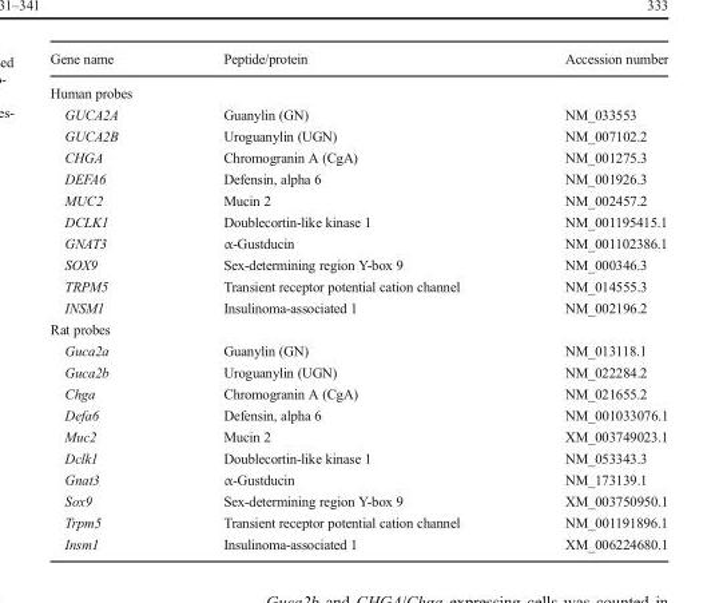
<table><thead><tr><td>Gene name</td><td>Peptide/protein</td><td>Accession number</td></tr></thead><tbody><tr><td colspan="3">Human probes</td></tr><tr><td>GUCA2A</td><td>Guanylin (GN)</td><td>NM_033553</td></tr><tr><td>GUCA2B</td><td>Uroguanylin (UGN)</td><td>NM_007102.2</td></tr><tr><td>CHGA</td><td>Chromogranin A (CgA)</td><td>NM_001275.3</td></tr><tr><td>DEFA6</td><td>Defensin, alpha 6</td><td>NM_001926.3</td></tr><tr><td>MUC2</td><td>Mucin 2</td><td>NM_002457.2</td></tr><tr><td>DCLK1</td><td>Doublecortin-like kinase 1</td><td>NM_001195415.1</td></tr><tr><td>GNAT3</td><td>α-Gustducin</td><td>NM_001102386.1</td></tr><tr><td>SOX9</td><td>Sex-determining region Y-box 9</td><td>NM_000346.3</td></tr><tr><td>TRPM5</td><td>Transient receptor potential cation channel</td><td>NM_014555.3</td></tr><tr><td>INSM1</td><td>Insulinoma-associated 1</td><td>NM_002196.2</td></tr><tr><td colspan="3">Rat probes</td></tr><tr><td>Guca2a</td><td>Guanylin (GN)</td><td>NM_013118.1</td></tr><tr><td>Guca2b</td><td>Uroguanylin (UGN)</td><td>NM_022284.2</td></tr><tr><td>Chga</td><td>Chromogranin A (CgA)</td><td>NM_021655.2</td></tr><tr><td>Defa6</td><td>Defensin, alpha 6</td><td>NM_001033076.1</td></tr><tr><td>Muc2</td><td>Mucin 2</td><td>XM_003749023.1</td></tr><tr><td>Dclk1</td><td>Doublecortin-like kinase 1</td><td>NM_053343.3</td></tr><tr><td>Gnat3</td><td>α-Gustducin</td><td>NM_173139.1</td></tr><tr><td>Sox9</td><td>Sex-determining region Y-box 9</td><td>XM_003750950.1</td></tr><tr><td>Trpm5</td><td>Transient receptor potential cation channel</td><td>NM_001191896.1</td></tr><tr><td>Insm1</td><td>Insulinoma-associated 1</td><td>XM_006224680.1</td></tr></tbody></table>